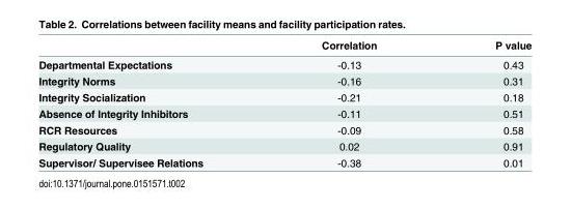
<table><thead><tr><td></td><td>Correlation</td><td>P value</td></tr></thead><tbody><tr><td>Departmental Expectations</td><td>-0.13</td><td>0.43</td></tr><tr><td>Integrity Norms</td><td>-0.16</td><td>0.31</td></tr><tr><td>Integrity Socialization</td><td>-0.21</td><td>0.18</td></tr><tr><td>Absence of Integrity Inhibitors</td><td>-0.11</td><td>0.51</td></tr><tr><td>RCR Resources</td><td>-0.09</td><td>0.58</td></tr><tr><td>Regulatory Quality</td><td>0.02</td><td>0.91</td></tr><tr><td>Supervisor/ Supervisee Relations</td><td>-0.38</td><td>0.01</td></tr></tbody></table>